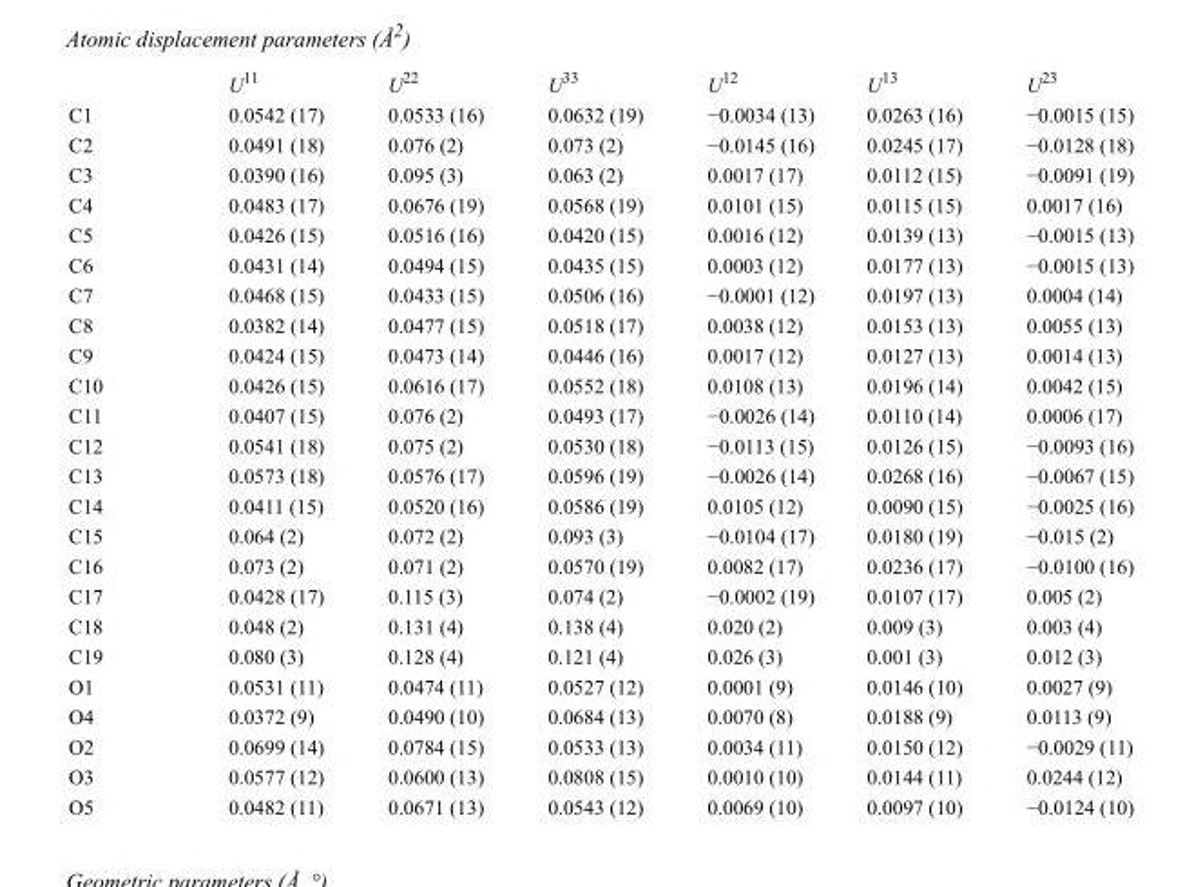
<table><thead><tr><td></td><td>U<sup>11</sup></td><td>U<sup>22</sup></td><td>U<sup>33</sup></td><td>U<sup>12</sup></td><td>U<sup>13</sup></td><td>U<sup>23</sup></td></tr></thead><tbody><tr><td>C1</td><td>0.0542 (17)</td><td>0.0533 (16)</td><td>0.0632 (19)</td><td>−0.0034 (13)</td><td>0.0263 (16)</td><td>−0.0015 (15)</td></tr><tr><td>C2</td><td>0.0491 (18)</td><td>0.076 (2)</td><td>0.073 (2)</td><td>−0.0145 (16)</td><td>0.0245 (17)</td><td>−0.0128 (18)</td></tr><tr><td>C3</td><td>0.0390 (16)</td><td>0.095 (3)</td><td>0.063 (2)</td><td>0.0017 (17)</td><td>0.0112 (15)</td><td>−0.0091 (19)</td></tr><tr><td>C4</td><td>0.0483 (17)</td><td>0.0676 (19)</td><td>0.0568 (19)</td><td>0.0101 (15)</td><td>0.0115 (15)</td><td>0.0017 (16)</td></tr><tr><td>C5</td><td>0.0426 (15)</td><td>0.0516 (16)</td><td>0.0420 (15)</td><td>0.0016 (12)</td><td>0.0139 (13)</td><td>−0.0015 (13)</td></tr><tr><td>C6</td><td>0.0431 (14)</td><td>0.0494 (15)</td><td>0.0435 (15)</td><td>0.0003 (12)</td><td>0.0177 (13)</td><td>−0.0015 (13)</td></tr><tr><td>C7</td><td>0.0468 (15)</td><td>0.0433 (15)</td><td>0.0506 (16)</td><td>−0.0001 (12)</td><td>0.0197 (13)</td><td>0.0004 (14)</td></tr><tr><td>C8</td><td>0.0382 (14)</td><td>0.0477 (15)</td><td>0.0518 (17)</td><td>0.0038 (12)</td><td>0.0153 (13)</td><td>0.0055 (13)</td></tr><tr><td>C9</td><td>0.0424 (15)</td><td>0.0473 (14)</td><td>0.0446 (16)</td><td>0.0017 (12)</td><td>0.0127 (13)</td><td>0.0014 (13)</td></tr><tr><td>C10</td><td>0.0426 (15)</td><td>0.0616 (17)</td><td>0.0552 (18)</td><td>0.0108 (13)</td><td>0.0196 (14)</td><td>0.0042 (15)</td></tr><tr><td>C11</td><td>0.0407 (15)</td><td>0.076 (2)</td><td>0.0493 (17)</td><td>−0.0026 (14)</td><td>0.0110 (14)</td><td>0.0006 (17)</td></tr><tr><td>C12</td><td>0.0541 (18)</td><td>0.075 (2)</td><td>0.0530 (18)</td><td>−0.0113 (15)</td><td>0.0126 (15)</td><td>−0.0093 (16)</td></tr><tr><td>C13</td><td>0.0573 (18)</td><td>0.0576 (17)</td><td>0.0596 (19)</td><td>−0.0026 (14)</td><td>0.0268 (16)</td><td>−0.0067 (15)</td></tr><tr><td>C14</td><td>0.0411 (15)</td><td>0.0520 (16)</td><td>0.0586 (19)</td><td>0.0105 (12)</td><td>0.0090 (15)</td><td>−0.0025 (16)</td></tr><tr><td>C15</td><td>0.064 (2)</td><td>0.072 (2)</td><td>0.093 (3)</td><td>−0.0104 (17)</td><td>0.0180 (19)</td><td>−0.015 (2)</td></tr><tr><td>C16</td><td>0.073 (2)</td><td>0.071 (2)</td><td>0.0570 (19)</td><td>0.0082 (17)</td><td>0.0236 (17)</td><td>−0.0100 (16)</td></tr><tr><td>C17</td><td>0.0428 (17)</td><td>0.115 (3)</td><td>0.074 (2)</td><td>−0.0002 (19)</td><td>0.0107 (17)</td><td>0.005 (2)</td></tr><tr><td>C18</td><td>0.048 (2)</td><td>0.131 (4)</td><td>0.138 (4)</td><td>0.020 (2)</td><td>0.009 (3)</td><td>0.003 (4)</td></tr><tr><td>C19</td><td>0.080 (3)</td><td>0.128 (4)</td><td>0.121 (4)</td><td>0.026 (3)</td><td>0.001 (3)</td><td>0.012 (3)</td></tr><tr><td>O1</td><td>0.0531 (11)</td><td>0.0474 (11)</td><td>0.0527 (12)</td><td>0.0001 (9)</td><td>0.0146 (10)</td><td>0.0027 (9)</td></tr><tr><td>O4</td><td>0.0372 (9)</td><td>0.0490 (10)</td><td>0.0684 (13)</td><td>0.0070 (8)</td><td>0.0188 (9)</td><td>0.0113 (9)</td></tr><tr><td>O2</td><td>0.0699 (14)</td><td>0.0784 (15)</td><td>0.0533 (13)</td><td>0.0034 (11)</td><td>0.0150 (12)</td><td>−0.0029 (11)</td></tr><tr><td>O3</td><td>0.0577 (12)</td><td>0.0600 (13)</td><td>0.0808 (15)</td><td>0.0010 (10)</td><td>0.0144 (11)</td><td>0.0244 (12)</td></tr><tr><td>O5</td><td>0.0482 (11)</td><td>0.0671 (13)</td><td>0.0543 (12)</td><td>0.0069 (10)</td><td>0.0097 (10)</td><td>−0.0124 (10)</td></tr></tbody></table>